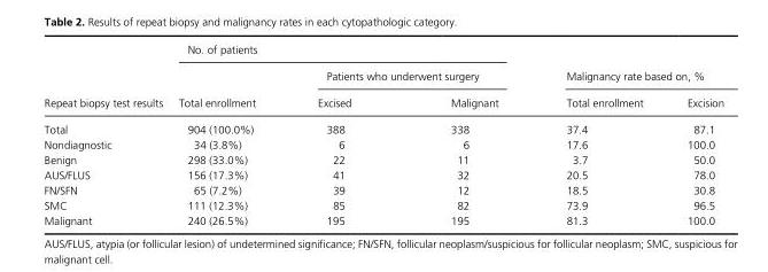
<table><thead><tr><td rowspan="3">Repeat biopsy test results</td><td colspan="3">No. of patients</td><td rowspan="2" colspan="2">Malignancy rate based on, %</td></tr><tr><td rowspan="2">Total enrollment</td><td colspan="2">Patients who underwent surgery</td></tr><tr><td>Excised</td><td>Malignant</td><td>Total enrollment</td><td>Excision</td></tr></thead><tbody><tr><td>Total</td><td>904 (100.0%)</td><td>388</td><td>338</td><td>37.4</td><td>87.1</td></tr><tr><td>Nondiagnostic</td><td>34 (3.8%)</td><td>6</td><td>6</td><td>17.6</td><td>100.0</td></tr><tr><td>Benign</td><td>298 (33.0%)</td><td>22</td><td>11</td><td>3.7</td><td>50.0</td></tr><tr><td>AUS/FLUS</td><td>156 (17.3%)</td><td>41</td><td>32</td><td>20.5</td><td>78.0</td></tr><tr><td>FN/SFN</td><td>65 (7.2%)</td><td>39</td><td>12</td><td>18.5</td><td>30.8</td></tr><tr><td>SMC</td><td>111 (12.3%)</td><td>85</td><td>82</td><td>73.9</td><td>96.5</td></tr><tr><td>Malignant</td><td>240 (26.5%)</td><td>195</td><td>195</td><td>81.3</td><td>100.0</td></tr></tbody></table>